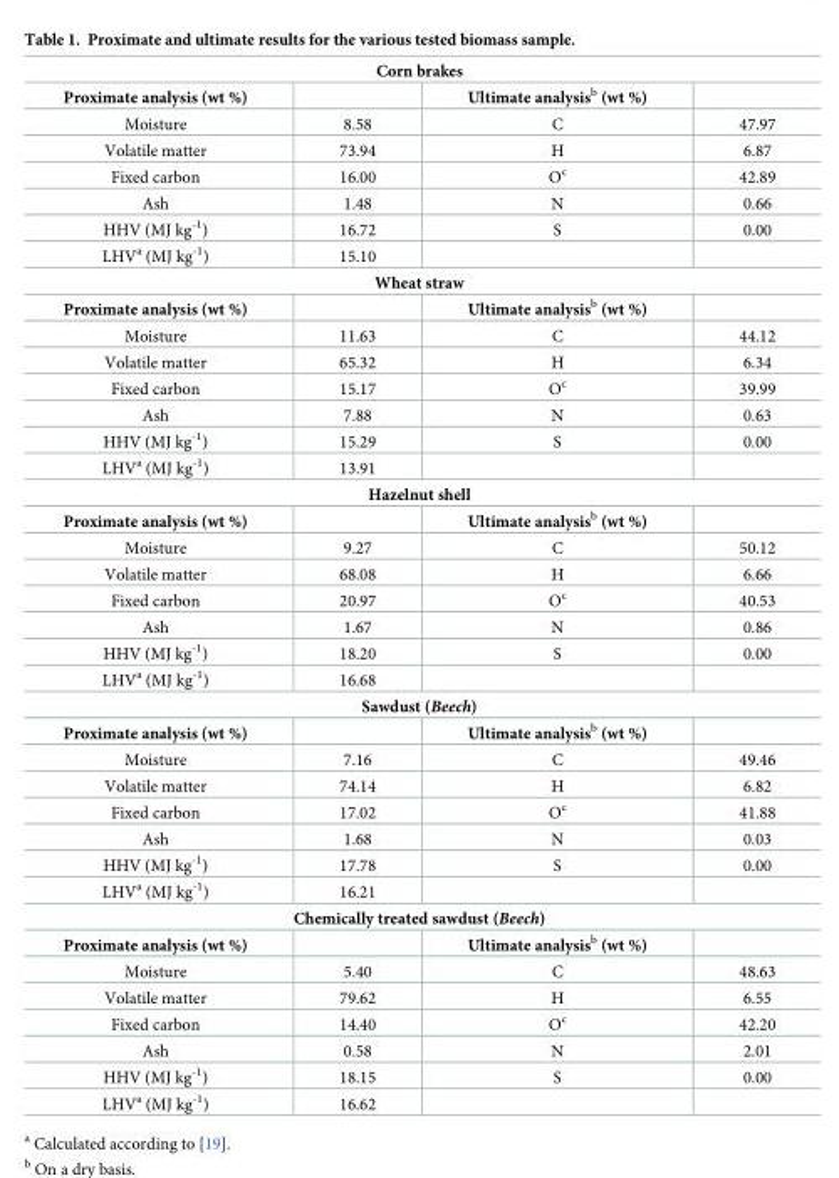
<table><tbody><tr><td colspan="4">Corn brakes</td></tr><tr><td>Proximate analysis (wt %)</td><td></td><td>Ultimate analysis<sup>b</sup> (wt %)</td><td></td></tr><tr><td>Moisture</td><td>8.58</td><td>C</td><td>47.97</td></tr><tr><td>Volatile matter</td><td>73.94</td><td>H</td><td>6.87</td></tr><tr><td>Fixed carbon</td><td>16.00</td><td>O<sup>c</sup></td><td>42.89</td></tr><tr><td>Ash</td><td>1.48</td><td>N</td><td>0.66</td></tr><tr><td>HHV (MJ kg<sup>-1</sup>)</td><td>16.72</td><td>S</td><td>0.00</td></tr><tr><td>LHV<sup>a</sup> (MJ kg<sup>-1</sup>)</td><td>15.10</td><td></td><td></td></tr><tr><td colspan="4">Wheat straw</td></tr><tr><td>Proximate analysis (wt %)</td><td></td><td>Ultimate analysis<sup>b</sup> (wt %)</td><td></td></tr><tr><td>Moisture</td><td>11.63</td><td>C</td><td>44.12</td></tr><tr><td>Volatile matter</td><td>65.32</td><td>H</td><td>6.34</td></tr><tr><td>Fixed carbon</td><td>15.17</td><td>O<sup>c</sup></td><td>39.99</td></tr><tr><td>Ash</td><td>7.88</td><td>N</td><td>0.63</td></tr><tr><td>HHV (MJ kg<sup>-1</sup>)</td><td>15.29</td><td>S</td><td>0.00</td></tr><tr><td>LHV<sup>a</sup> (MJ kg<sup>-1</sup>)</td><td>13.91</td><td></td><td></td></tr><tr><td colspan="4">Hazelnut shell</td></tr><tr><td>Proximate analysis (wt %)</td><td></td><td>Ultimate analysis<sup>b</sup> (wt %)</td><td></td></tr><tr><td>Moisture</td><td>9.27</td><td>C</td><td>50.12</td></tr><tr><td>Volatile matter</td><td>68.08</td><td>H</td><td>6.66</td></tr><tr><td>Fixed carbon</td><td>20.97</td><td>O<sup>c</sup></td><td>40.53</td></tr><tr><td>Ash</td><td>1.67</td><td>N</td><td>0.86</td></tr><tr><td>HHV (MJ kg<sup>-1</sup>)</td><td>18.20</td><td>S</td><td>0.00</td></tr><tr><td>LHV<sup>a</sup> (MJ kg<sup>-1</sup>)</td><td>16.68</td><td></td><td></td></tr><tr><td colspan="4">Sawdust (Beech)</td></tr><tr><td>Proximate analysis (wt %)</td><td></td><td>Ultimate analysis<sup>b</sup> (wt %)</td><td></td></tr><tr><td>Moisture</td><td>7.16</td><td>C</td><td>49.46</td></tr><tr><td>Volatile matter</td><td>74.14</td><td>H</td><td>6.82</td></tr><tr><td>Fixed carbon</td><td>17.02</td><td>O<sup>c</sup></td><td>41.88</td></tr><tr><td>Ash</td><td>1.68</td><td>N</td><td>0.03</td></tr><tr><td>HHV (MJ kg<sup>-1</sup>)</td><td>17.78</td><td>S</td><td>0.00</td></tr><tr><td>LHV<sup>a</sup> (MJ kg<sup>-1</sup>)</td><td>16.21</td><td></td><td></td></tr><tr><td colspan="4">Chemically treated sawdust (Beech)</td></tr><tr><td>Proximate analysis (wt %)</td><td></td><td>Ultimate analysis<sup>b</sup> (wt %)</td><td></td></tr><tr><td>Moisture</td><td>5.40</td><td>C</td><td>48.63</td></tr><tr><td>Volatile matter</td><td>79.62</td><td>H</td><td>6.55</td></tr><tr><td>Fixed carbon</td><td>14.40</td><td>O<sup>c</sup></td><td>42.20</td></tr><tr><td>Ash</td><td>0.58</td><td>N</td><td>2.01</td></tr><tr><td>HHV (MJ kg<sup>-1</sup>)</td><td>18.15</td><td>S</td><td>0.00</td></tr><tr><td>LHV<sup>a</sup> (MJ kg<sup>-1</sup>)</td><td>16.62</td><td></td><td></td></tr></tbody></table>